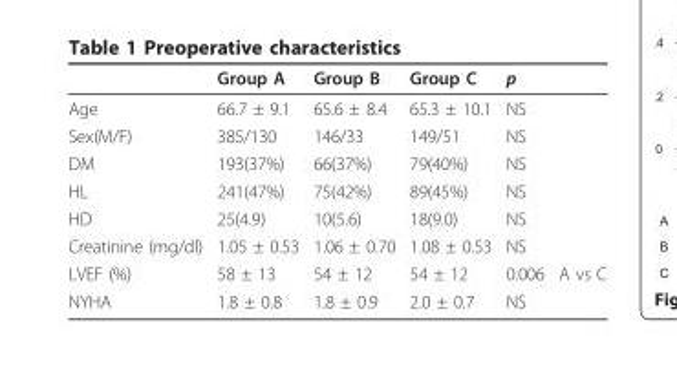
<table><thead><tr><td></td><td>Group A</td><td>Group B</td><td>Group C</td><td>p</td><td></td></tr></thead><tbody><tr><td>Age</td><td>66.7 ± 9.1</td><td>65.6 ± 8.4</td><td>65.3 ± 10.1</td><td>NS</td><td></td></tr><tr><td>Sex(M/F)</td><td>385/130</td><td>146/33</td><td>149/51</td><td>NS</td><td></td></tr><tr><td>DM</td><td>193(37%)</td><td>66(37%)</td><td>79(40%)</td><td>NS</td><td></td></tr><tr><td>HL</td><td>241(47%)</td><td>75(42%)</td><td>89(45%)</td><td>NS</td><td></td></tr><tr><td>HD</td><td>25(4.9)</td><td>10(5.6)</td><td>18(9.0)</td><td>NS</td><td></td></tr><tr><td>Creatinine (mg/dl)</td><td>1.05 ± 0.53</td><td>1.06 ± 0.70</td><td>1.08 ± 0.53</td><td>NS</td><td></td></tr><tr><td>LVEF (%)</td><td>58 ± 13</td><td>54 ± 12</td><td>54 ± 12</td><td>0.006</td><td>A vs C</td></tr><tr><td>NYHA</td><td>1.8 ± 0.8</td><td>1.8 ± 0.9</td><td>2.0 ± 0.7</td><td>NS</td><td></td></tr></tbody></table>